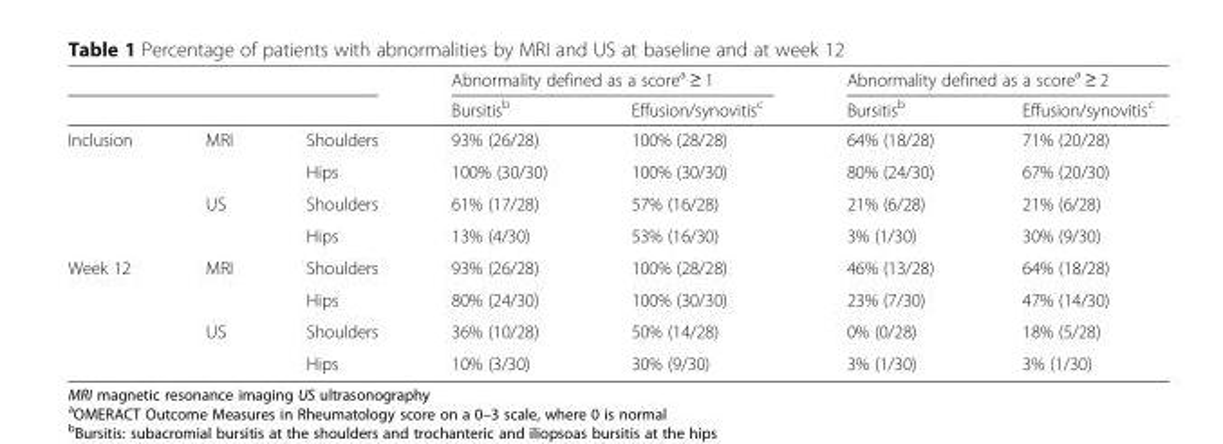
<table><thead><tr><td rowspan="2"></td><td rowspan="2"></td><td rowspan="2"></td><td colspan="2">Abnormality defined as a score<sup>a</sup> ≥ 1</td><td colspan="2">Abnormality defined as a score<sup>a</sup> ≥ 2</td></tr><tr><td>Bursitis<sup>b</sup></td><td>Effusion/synovitis<sup>c</sup></td><td>Bursitis<sup>b</sup></td><td>Effusion/synovitis<sup>c</sup></td></tr></thead><tbody><tr><td rowspan="4">Inclusion</td><td>MRI</td><td>Shoulders</td><td>93% (26/28)</td><td>100% (28/28)</td><td>64% (18/28)</td><td>71% (20/28)</td></tr><tr><td></td><td>Hips</td><td>100% (30/30)</td><td>100% (30/30)</td><td>80% (24/30)</td><td>67% (20/30)</td></tr><tr><td>US</td><td>Shoulders</td><td>61% (17/28)</td><td>57% (16/28)</td><td>21% (6/28)</td><td>21% (6/28)</td></tr><tr><td></td><td>Hips</td><td>13% (4/30)</td><td>53% (16/30)</td><td>3% (1/30)</td><td>30% (9/30)</td></tr><tr><td rowspan="4">Week 12</td><td>MRI</td><td>Shoulders</td><td>93% (26/28)</td><td>100% (28/28)</td><td>46% (13/28)</td><td>64% (18/28)</td></tr><tr><td></td><td>Hips</td><td>80% (24/30)</td><td>100% (30/30)</td><td>23% (7/30)</td><td>47% (14/30)</td></tr><tr><td>US</td><td>Shoulders</td><td>36% (10/28)</td><td>50% (14/28)</td><td>0% (0/28)</td><td>18% (5/28)</td></tr><tr><td></td><td>Hips</td><td>10% (3/30)</td><td>30% (9/30)</td><td>3% (1/30)</td><td>3% (1/30)</td></tr></tbody></table>